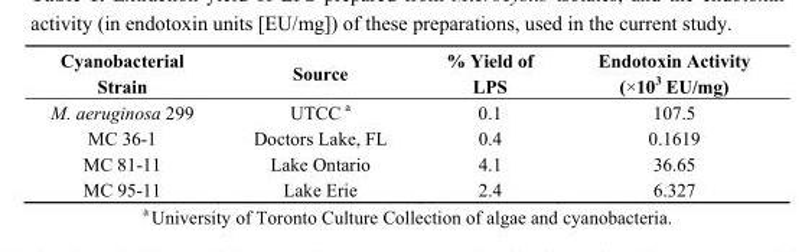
<table><thead><tr><td>Cyanobacterial Strain</td><td>Source</td><td>% Yield of LPS</td><td>Endotoxin Activity (×10<sup>3</sup> EU/mg)</td></tr></thead><tbody><tr><td>M. aeruginosa 299</td><td>UTCC <sup>a</sup></td><td>0.1</td><td>107.5</td></tr><tr><td>MC 36-1</td><td>Doctors Lake, FL</td><td>0.4</td><td>0.1619</td></tr><tr><td>MC 81-11</td><td>Lake Ontario</td><td>4.1</td><td>36.65</td></tr><tr><td>MC 95-11</td><td>Lake Erie</td><td>2.4</td><td>6.327</td></tr></tbody></table>